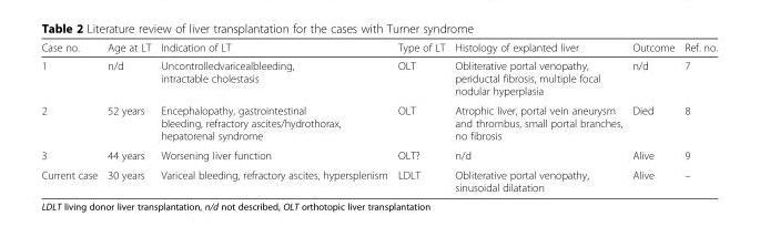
<table><thead><tr><td>Case no.</td><td>Age at LT</td><td>Indication of LT</td><td>Type of LT</td><td>Histology of explanted liver</td><td>Outcome</td><td>Ref. no.</td></tr></thead><tbody><tr><td>1</td><td>n/d</td><td>Uncontrolledvaricealbleeding, intractable cholestasis</td><td>OLT</td><td>Obliterative portal venopathy, periductal fibrosis, multiple focal nodular hyperplasia</td><td>n/d</td><td>7</td></tr><tr><td>2</td><td>52 years</td><td>Encephalopathy, gastrointestinal bleeding, refractory ascites/hydrothorax, hepatorenal syndrome</td><td>OLT</td><td>Atrophic liver, portal vein aneurysm and thrombus, small portal branches, no fibrosis</td><td>Died</td><td>8</td></tr><tr><td>3</td><td>44 years</td><td>Worsening liver function</td><td>OLT?</td><td>n/d</td><td>Alive</td><td>9</td></tr><tr><td>Current case</td><td>30 years</td><td>Variceal bleeding, refractory ascites, hypersplenism</td><td>LDLT</td><td>Obliterative portal venopathy, sinusoidal dilatation</td><td>Alive</td><td>–</td></tr></tbody></table>